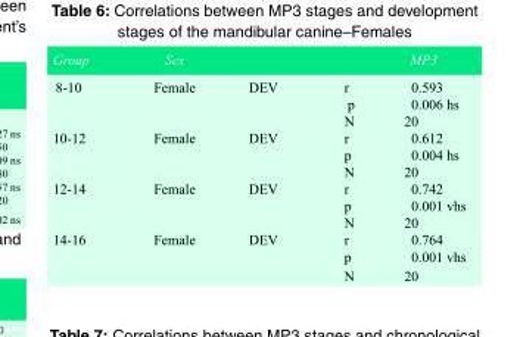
<table><tbody><tr><td>Group</td><td>Sex</td><td></td><td></td><td>MP3</td></tr><tr><td rowspan="3">8-10</td><td>Female</td><td>DEV</td><td>r</td><td>0.593</td></tr><tr><td></td><td></td><td>p</td><td>0.006 hs</td></tr><tr><td></td><td></td><td>N</td><td>20</td></tr><tr><td rowspan="3">10-12</td><td>Female</td><td>DEV</td><td>r</td><td>0.612</td></tr><tr><td></td><td></td><td>p</td><td>0.004 hs</td></tr><tr><td></td><td></td><td>N</td><td>20</td></tr><tr><td rowspan="3">12-14</td><td>Female</td><td>DEV</td><td>r</td><td>0.742</td></tr><tr><td></td><td></td><td>p</td><td>0.001 vhs</td></tr><tr><td></td><td></td><td>N</td><td>20</td></tr><tr><td rowspan="3">14-16</td><td>Female</td><td>DEV</td><td>r</td><td>0.764</td></tr><tr><td></td><td></td><td>p</td><td>0.001 vhs</td></tr><tr><td></td><td></td><td>N</td><td>20</td></tr></tbody></table>